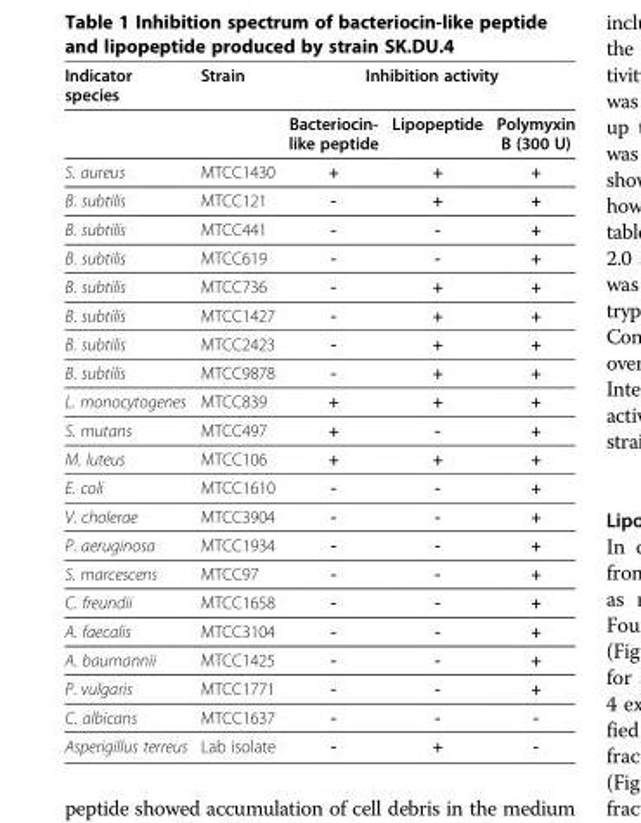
<table><thead><tr><td rowspan="2">Indicator species</td><td rowspan="2">Strain</td><td colspan="3">Inhibition activity</td></tr><tr><td>Bacteriocin- like peptide</td><td>Lipopeptide</td><td>Polymyxin B (300 U)</td></tr></thead><tbody><tr><td>S. aureus</td><td>MTCC1430</td><td>+</td><td>+</td><td>+</td></tr><tr><td>B. subtilis</td><td>MTCC121</td><td>-</td><td>+</td><td>+</td></tr><tr><td>B. subtilis</td><td>MTCC441</td><td>-</td><td>-</td><td>+</td></tr><tr><td>B. subtilis</td><td>MTCC619</td><td>-</td><td>-</td><td>+</td></tr><tr><td>B. subtilis</td><td>MTCC736</td><td>-</td><td>+</td><td>+</td></tr><tr><td>B. subtilis</td><td>MTCC1427</td><td>-</td><td>+</td><td>+</td></tr><tr><td>B. subtilis</td><td>MTCC2423</td><td>-</td><td>+</td><td>+</td></tr><tr><td>B. subtilis</td><td>MTCC9878</td><td>-</td><td>+</td><td>+</td></tr><tr><td>L. monocytogenes</td><td>MTCC839</td><td>+</td><td>+</td><td>+</td></tr><tr><td>S. mutans</td><td>MTCC497</td><td>+</td><td>-</td><td>+</td></tr><tr><td>M. luteus</td><td>MTCC106</td><td>+</td><td>+</td><td>+</td></tr><tr><td>E. coli</td><td>MTCC1610</td><td>-</td><td>-</td><td>+</td></tr><tr><td>V. cholerae</td><td>MTCC3904</td><td>-</td><td>-</td><td>+</td></tr><tr><td>P. aeruginosa</td><td>MTCC1934</td><td>-</td><td>-</td><td>+</td></tr><tr><td>S. marcescens</td><td>MTCC97</td><td>-</td><td>-</td><td>+</td></tr><tr><td>C. freundii</td><td>MTCC1658</td><td>-</td><td>-</td><td>+</td></tr><tr><td>A. faecalis</td><td>MTCC3104</td><td>-</td><td>-</td><td>+</td></tr><tr><td>A. baumannii</td><td>MTCC1425</td><td>-</td><td>-</td><td>+</td></tr><tr><td>P. vulgaris</td><td>MTCC1771</td><td>-</td><td>-</td><td>+</td></tr><tr><td>C. albicans</td><td>MTCC1637</td><td>-</td><td>-</td><td>-</td></tr><tr><td>Asperigillus terreus</td><td>Lab isolate</td><td>-</td><td>+</td><td>-</td></tr></tbody></table>